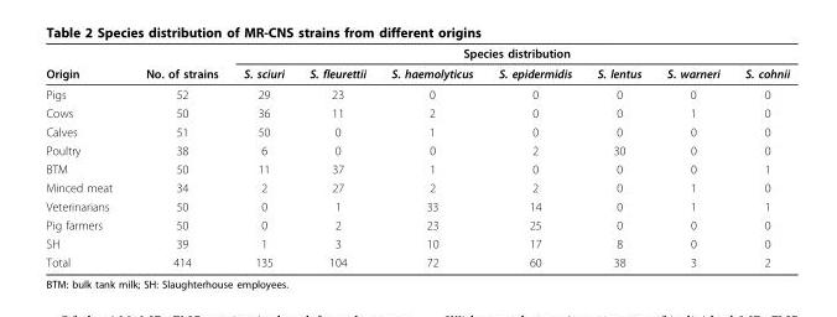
<table><thead><tr><td rowspan="2">Origin</td><td rowspan="2">No. of strains</td><td colspan="7">Species distribution</td></tr><tr><td>S. sciuri</td><td>S. fleurettii</td><td>S. haemolyticus</td><td>S. epidermidis</td><td>S. lentus</td><td>S. warneri</td><td>S. cohnii</td></tr></thead><tbody><tr><td>Pigs</td><td>52</td><td>29</td><td>23</td><td>0</td><td>0</td><td>0</td><td>0</td><td>0</td></tr><tr><td>Cows</td><td>50</td><td>36</td><td>11</td><td>2</td><td>0</td><td>0</td><td>1</td><td>0</td></tr><tr><td>Calves</td><td>51</td><td>50</td><td>0</td><td>1</td><td>0</td><td>0</td><td>0</td><td>0</td></tr><tr><td>Poultry</td><td>38</td><td>6</td><td>0</td><td>0</td><td>2</td><td>30</td><td>0</td><td>0</td></tr><tr><td>BTM</td><td>50</td><td>11</td><td>37</td><td>1</td><td>0</td><td>0</td><td>0</td><td>1</td></tr><tr><td>Minced meat</td><td>34</td><td>2</td><td>27</td><td>2</td><td>2</td><td>0</td><td>1</td><td>0</td></tr><tr><td>Veterinarians</td><td>50</td><td>0</td><td>1</td><td>33</td><td>14</td><td>0</td><td>1</td><td>1</td></tr><tr><td>Pig farmers</td><td>50</td><td>0</td><td>2</td><td>23</td><td>25</td><td>0</td><td>0</td><td>0</td></tr><tr><td>SH</td><td>39</td><td>1</td><td>3</td><td>10</td><td>17</td><td>8</td><td>0</td><td>0</td></tr><tr><td>Total</td><td>414</td><td>135</td><td>104</td><td>72</td><td>60</td><td>38</td><td>3</td><td>2</td></tr></tbody></table>